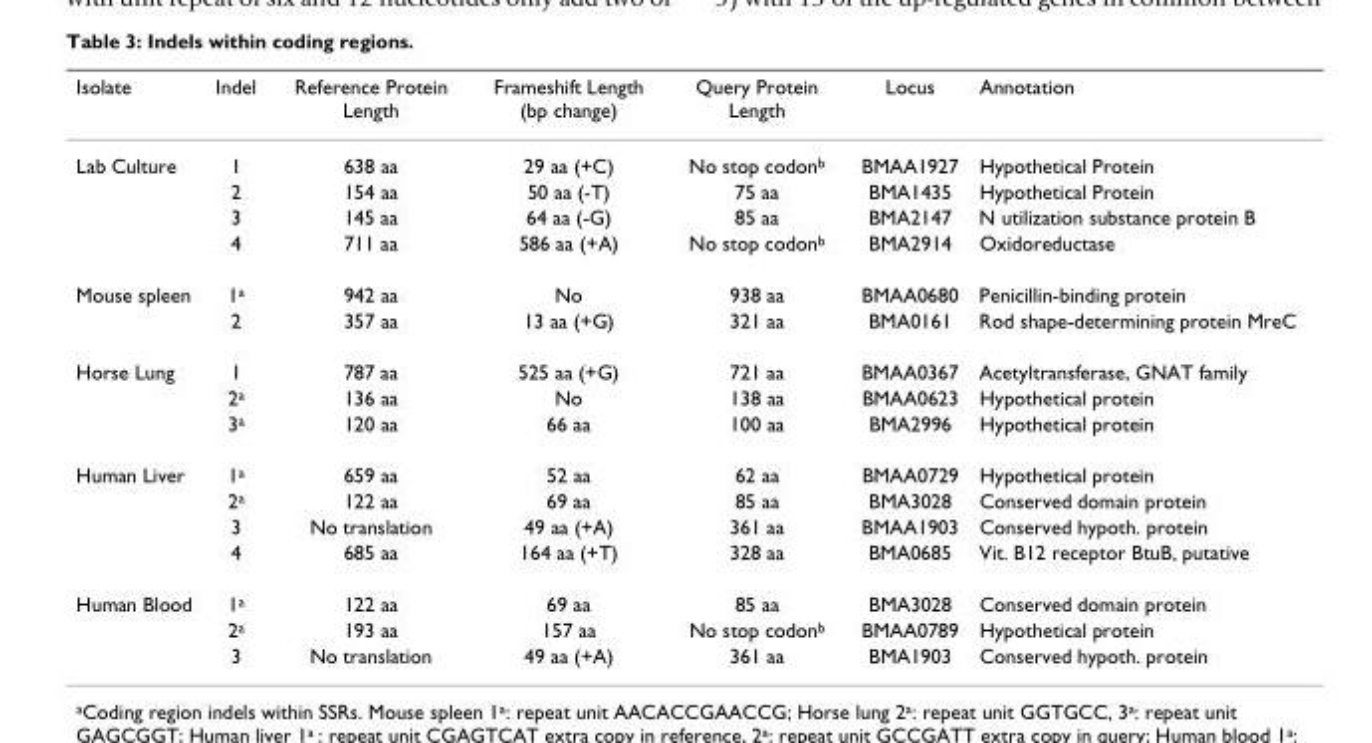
<table><thead><tr><td>Isolate</td><td>Indel</td><td>Reference Protein Length</td><td>Frameshift Length (bp change)</td><td>Query Protein Length</td><td>Locus</td><td>Annotation</td></tr></thead><tbody><tr><td rowspan="4">Lab Culture</td><td>1</td><td>638 aa</td><td>29 aa (+C)</td><td>No stop codonb</td><td>BMAA1927</td><td>Hypothetical Protein</td></tr><tr><td>2</td><td>154 aa</td><td>50 aa (-T)</td><td>75 aa</td><td>BMA1435</td><td>Hypothetical Protein</td></tr><tr><td>3</td><td>145 aa</td><td>64 aa (-G)</td><td>85 aa</td><td>BMA2147</td><td>N utilization substance protein B</td></tr><tr><td>4</td><td>711 aa</td><td>586 aa (+A)</td><td>No stop codonb</td><td>BMA2914</td><td>Oxidoreductase</td></tr><tr><td rowspan="2">Mouse spleen</td><td>1a</td><td>942 aa</td><td>No</td><td>938 aa</td><td>BMAA0680</td><td>Penicillin-binding protein</td></tr><tr><td>2</td><td>357 aa</td><td>13 aa (+G)</td><td>321 aa</td><td>BMA0161</td><td>Rod shape-determining protein MreC</td></tr><tr><td rowspan="3">Horse Lung</td><td>1</td><td>787 aa</td><td>525 aa (+G)</td><td>721 aa</td><td>BMAA0367</td><td>Acetyltransferase, GNAT family</td></tr><tr><td>2a</td><td>136 aa</td><td>No</td><td>138 aa</td><td>BMAA0623</td><td>Hypothetical protein</td></tr><tr><td>3a</td><td>120 aa</td><td>66 aa</td><td>100 aa</td><td>BMA2996</td><td>Hypothetical protein</td></tr><tr><td rowspan="4">Human Liver</td><td>1a</td><td>659 aa</td><td>52 aa</td><td>62 aa</td><td>BMAA0729</td><td>Hypothetical protein</td></tr><tr><td>2a</td><td>122 aa</td><td>69 aa</td><td>85 aa</td><td>BMA3028</td><td>Conserved domain protein</td></tr><tr><td>3</td><td>No translation</td><td>49 aa (+A)</td><td>361 aa</td><td>BMAA1903</td><td>Conserved hypoth. protein</td></tr><tr><td>4</td><td>685 aa</td><td>164 aa (+T)</td><td>328 aa</td><td>BMA0685</td><td>Vit. B12 receptor BtuB, putative</td></tr><tr><td rowspan="3">Human Blood</td><td>1a</td><td>122 aa</td><td>69 aa</td><td>85 aa</td><td>BMA3028</td><td>Conserved domain protein</td></tr><tr><td>2a</td><td>193 aa</td><td>157 aa</td><td>No stop codonb</td><td>BMAA0789</td><td>Hypothetical protein</td></tr><tr><td>3</td><td>No translation</td><td>49 aa (+A)</td><td>361 aa</td><td>BMA1903</td><td>Conserved hypoth. protein</td></tr></tbody></table>